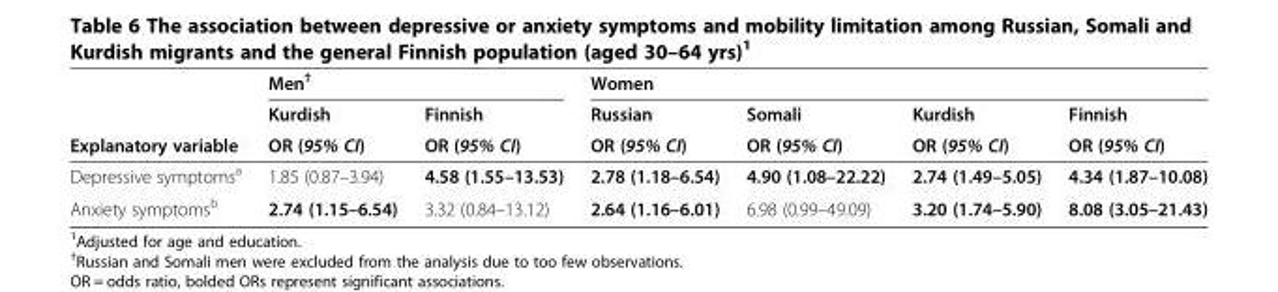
<table><thead><tr><td rowspan="3">Explanatory variable</td><td colspan="2">Men<sup>†</sup></td><td colspan="4">Women</td></tr><tr><td rowspan="2">Kurdish OR (95% CI)</td><td rowspan="2">Finnish OR (95% CI)</td><td rowspan="2">Russian OR (95% CI)</td><td rowspan="2">Somali OR (95% CI)</td><td rowspan="2">Kurdish OR (95% CI)</td><td rowspan="2">Finnish OR (95% CI)</td></tr><tr></tr></thead><tbody><tr><td>Depressive symptoms<sup>a</sup></td><td>1.85 (0.87–3.94)</td><td>4.58 (1.55–13.53)</td><td>2.78 (1.18–6.54)</td><td>4.90 (1.08–22.22)</td><td>2.74 (1.49–5.05)</td><td>4.34 (1.87–10.08)</td></tr><tr><td>Anxiety symptoms<sup>b</sup></td><td>2.74 (1.15–6.54)</td><td>3.32 (0.84–13.12)</td><td>2.64 (1.16–6.01)</td><td>6.98 (0.99–49.09)</td><td>3.20 (1.74–5.90)</td><td>8.08 (3.05–21.43)</td></tr></tbody></table>